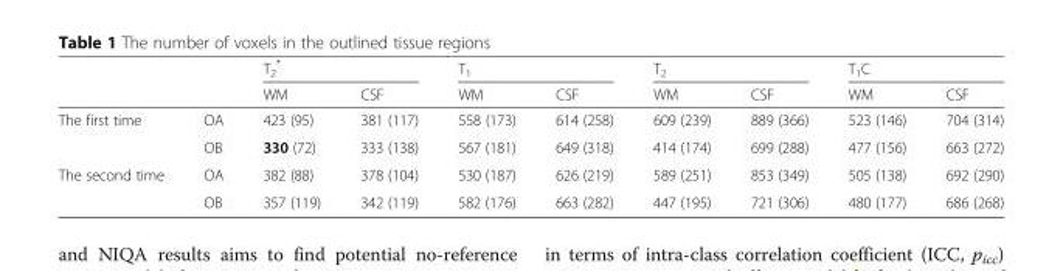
<table><thead><tr><td rowspan="2"></td><td rowspan="2"></td><td colspan="2">T<sub>2</sub> *</td><td colspan="2">T<sub>1</sub></td><td colspan="2">T<sub>2</sub></td><td colspan="2">T<sub>1</sub>C</td></tr><tr><td>WM</td><td>CSF</td><td>WM</td><td>CSF</td><td>WM</td><td>CSF</td><td>WM</td><td>CSF</td></tr></thead><tbody><tr><td rowspan="2">The first time</td><td>OA</td><td>423 (95)</td><td>381 (117)</td><td>558 (173)</td><td>614 (258)</td><td>609 (239)</td><td>889 (366)</td><td>523 (146)</td><td>704 (314)</td></tr><tr><td>OB</td><td>330 (72)</td><td>333 (138)</td><td>567 (181)</td><td>649 (318)</td><td>414 (174)</td><td>699 (288)</td><td>477 (156)</td><td>663 (272)</td></tr><tr><td rowspan="2">The second time</td><td>OA</td><td>382 (88)</td><td>378 (104)</td><td>530 (187)</td><td>626 (219)</td><td>589 (251)</td><td>853 (349)</td><td>505 (138)</td><td>692 (290)</td></tr><tr><td>OB</td><td>357 (119)</td><td>342 (119)</td><td>582 (176)</td><td>663 (282)</td><td>447 (195)</td><td>721 (306)</td><td>480 (177)</td><td>686 (268)</td></tr></tbody></table>